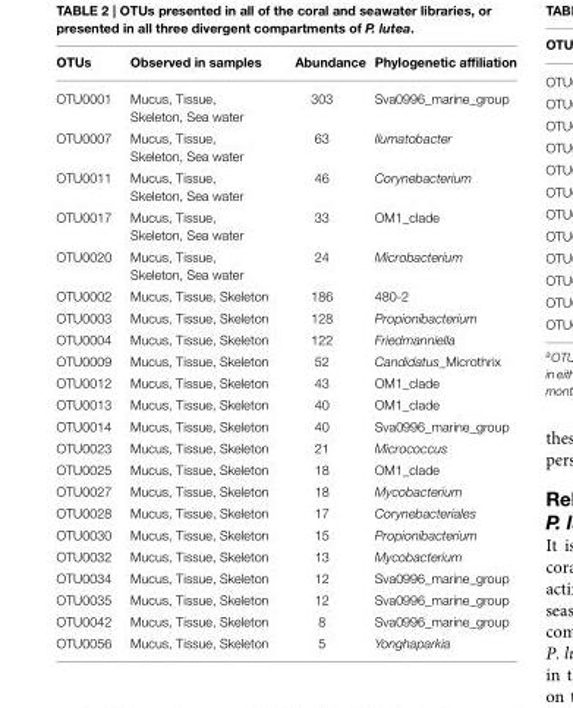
<table><thead><tr><td>OTUs</td><td>Observed in samples</td><td>Abundance</td><td>Phylogenetic affiliation</td></tr></thead><tbody><tr><td>OTU0001</td><td>Mucus, Tissue, Skeleton, Sea water</td><td>303</td><td>Sva0996_marine_group</td></tr><tr><td>OTU0007</td><td>Mucus, Tissue, Skeleton, Sea water</td><td>63</td><td>Ilumatobacter</td></tr><tr><td>OTU0011</td><td>Mucus, Tissue, Skeleton, Sea water</td><td>46</td><td>Corynebacterium</td></tr><tr><td>OTU0017</td><td>Mucus, Tissue, Skeleton, Sea water</td><td>33</td><td>OM1_clade</td></tr><tr><td>OTU0020</td><td>Mucus, Tissue, Skeleton, Sea water</td><td>24</td><td>Microbacterium</td></tr><tr><td>OTU0002</td><td>Mucus, Tissue, Skeleton</td><td>186</td><td>480-2</td></tr><tr><td>OTU0003</td><td>Mucus, Tissue, Skeleton</td><td>128</td><td>Propionibacterium</td></tr><tr><td>OTU0004</td><td>Mucus, Tissue, Skeleton</td><td>122</td><td>Friedmanniella</td></tr><tr><td>OTU0009</td><td>Mucus, Tissue, Skeleton</td><td>52</td><td>Candidatus_Microthrix</td></tr><tr><td>OTU0012</td><td>Mucus, Tissue, Skeleton</td><td>43</td><td>OM1_clade</td></tr><tr><td>OTU0013</td><td>Mucus, Tissue, Skeleton</td><td>40</td><td>OM1_clade</td></tr><tr><td>OTU0014</td><td>Mucus, Tissue, Skeleton</td><td>40</td><td>Sva0996_marine_group</td></tr><tr><td>OTU0023</td><td>Mucus, Tissue, Skeleton</td><td>21</td><td>Micrococcus</td></tr><tr><td>OTU0025</td><td>Mucus, Tissue, Skeleton</td><td>18</td><td>OM1_clade</td></tr><tr><td>OTU0027</td><td>Mucus, Tissue, Skeleton</td><td>18</td><td>Mycobacterium</td></tr><tr><td>OTU0028</td><td>Mucus, Tissue, Skeleton</td><td>17</td><td>Corynebacteriales</td></tr><tr><td>OTU0030</td><td>Mucus, Tissue, Skeleton</td><td>15</td><td>Propionibacterium</td></tr><tr><td>OTU0032</td><td>Mucus, Tissue, Skeleton</td><td>13</td><td>Mycobacterium</td></tr><tr><td>OTU0034</td><td>Mucus, Tissue, Skeleton</td><td>12</td><td>Sva0996_marine_group</td></tr><tr><td>OTU0035</td><td>Mucus, Tissue, Skeleton</td><td>12</td><td>Sva0996_marine_group</td></tr><tr><td>OTU0042</td><td>Mucus, Tissue, Skeleton</td><td>8</td><td>Sva0996_marine_group</td></tr><tr><td>OTU0056</td><td>Mucus, Tissue, Skeleton</td><td>5</td><td>Yonghaparkia</td></tr></tbody></table>